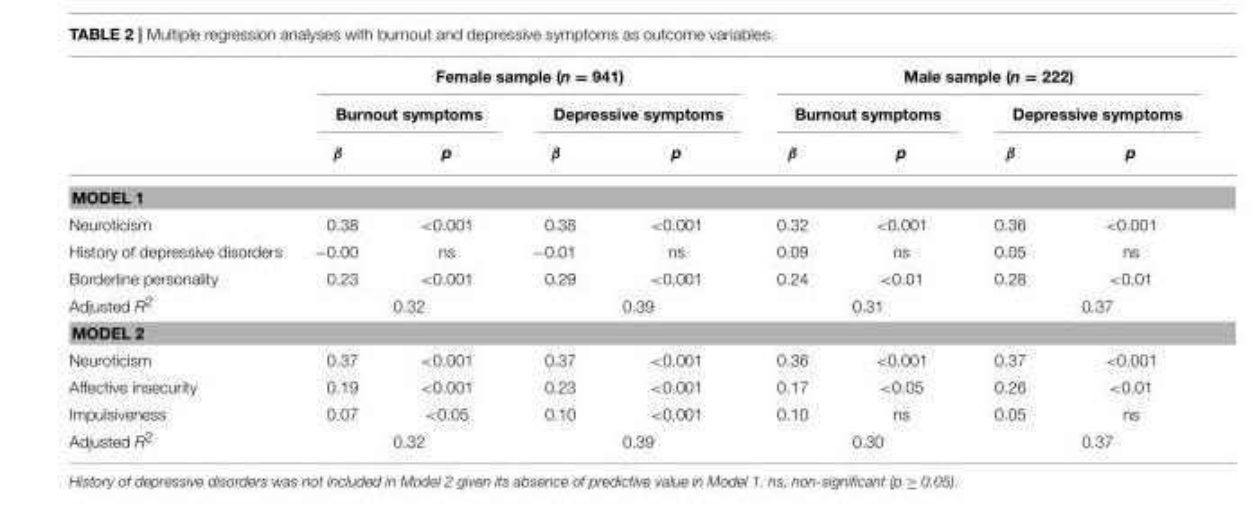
<table><thead><tr><td rowspan="3"></td><td colspan="4">Female sample (n = 941)</td><td colspan="4">Male sample (n = 222)</td></tr><tr><td colspan="2">Burnout symptoms</td><td colspan="2">Depressive symptoms</td><td colspan="2">Burnout symptoms</td><td colspan="2">Depressive symptoms</td></tr><tr><td>β</td><td>p</td><td>β</td><td>p</td><td>β</td><td>p</td><td>β</td><td>p</td></tr></thead><tbody><tr><td colspan="9">MODEL 1</td></tr><tr><td>Neuroticism</td><td>0.38</td><td>&lt;0.001</td><td>0.38</td><td>&lt;0.001</td><td>0.32</td><td>&lt;0.001</td><td>0.36</td><td>&lt;0.001</td></tr><tr><td>History of depressive disorders</td><td>−0.00</td><td>ns</td><td>−0.01</td><td>ns</td><td>0.09</td><td>ns</td><td>0.05</td><td>ns</td></tr><tr><td>Borderline personality</td><td>0.23</td><td>&lt;0.001</td><td>0.29</td><td>&lt;0.001</td><td>0.24</td><td>&lt;0.01</td><td>0.28</td><td>&lt;0.01</td></tr><tr><td>Adjusted R<sup>2</sup></td><td colspan="2">0.32</td><td colspan="2">0.39</td><td colspan="2">0.31</td><td colspan="2">0.37</td></tr><tr><td colspan="9">MODEL 2</td></tr><tr><td>Neuroticism</td><td>0.37</td><td>&lt;0.001</td><td>0.37</td><td>&lt;0.001</td><td>0.36</td><td>&lt;0.001</td><td>0.37</td><td>&lt;0.001</td></tr><tr><td>Affective insecurity</td><td>0.19</td><td>&lt;0.001</td><td>0.23</td><td>&lt;0.001</td><td>0.17</td><td>&lt;0.05</td><td>0.26</td><td>&lt;0.01</td></tr><tr><td>Impulsiveness</td><td>0.07</td><td>&lt;0.05</td><td>0.10</td><td>&lt;0.001</td><td>0.10</td><td>ns</td><td>0.05</td><td>ns</td></tr><tr><td>Adjusted R<sup>2</sup></td><td colspan="2">0.32</td><td colspan="2">0.39</td><td colspan="2">0.30</td><td colspan="2">0.37</td></tr></tbody></table>